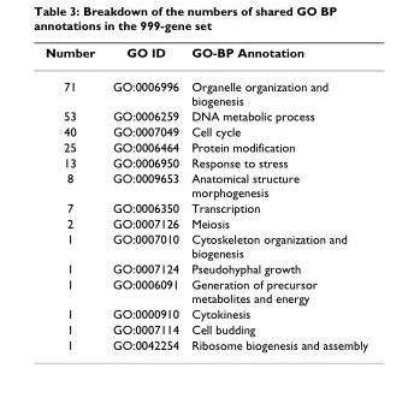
<table><thead><tr><td>Number</td><td>GO ID</td><td>GO-BP Annotation</td></tr></thead><tbody><tr><td>71</td><td>GO:0006996</td><td>Organelle organization and biogenesis</td></tr><tr><td>53</td><td>GO:0006259</td><td>DNA metabolic process</td></tr><tr><td>40</td><td>GO:0007049</td><td>Cell cycle</td></tr><tr><td>25</td><td>GO:0006464</td><td>Protein modification</td></tr><tr><td>13</td><td>GO:0006950</td><td>Response to stress</td></tr><tr><td>8</td><td>GO:0009653</td><td>Anatomical structure morphogenesis</td></tr><tr><td>7</td><td>GO:0006350</td><td>Transcription</td></tr><tr><td>2</td><td>GO:0007126</td><td>Meiosis</td></tr><tr><td>1</td><td>GO:0007010</td><td>Cytoskeleton organization and biogenesis</td></tr><tr><td>1</td><td>GO:0007124</td><td>Pseudohyphal growth</td></tr><tr><td>1</td><td>GO:0006091</td><td>Generation of precursor metabolites and energy</td></tr><tr><td>1</td><td>GO:0000910</td><td>Cytokinesis</td></tr><tr><td>1</td><td>GO:0007114</td><td>Cell budding</td></tr><tr><td>1</td><td>GO:0042254</td><td>Ribosome biogenesis and assembly</td></tr></tbody></table>